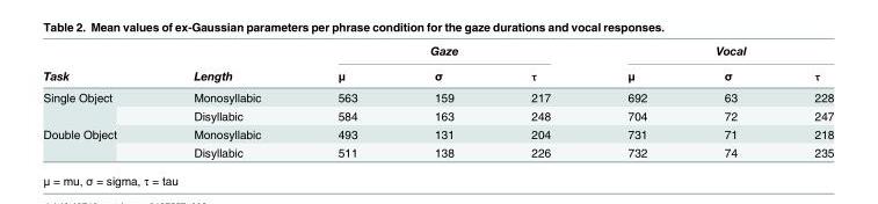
<table><thead><tr><td rowspan="2">Task</td><td rowspan="2">Length</td><td colspan="3">Gaze</td><td colspan="3">Vocal</td></tr><tr><td>μ</td><td>σ</td><td>τ</td><td>μ</td><td>σ</td><td>τ</td></tr></thead><tbody><tr><td rowspan="2">Single Object</td><td>Monosyllabic</td><td>563</td><td>159</td><td>217</td><td>692</td><td>63</td><td>228</td></tr><tr><td>Disyllabic</td><td>584</td><td>163</td><td>248</td><td>704</td><td>72</td><td>247</td></tr><tr><td rowspan="2">Double Object</td><td>Monosyllabic</td><td>493</td><td>131</td><td>204</td><td>731</td><td>71</td><td>218</td></tr><tr><td>Disyllabic</td><td>511</td><td>138</td><td>226</td><td>732</td><td>74</td><td>235</td></tr></tbody></table>